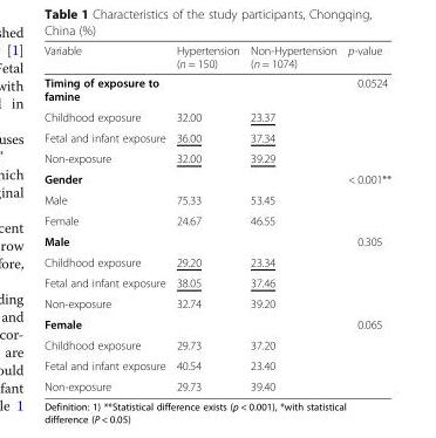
<table><thead><tr><td>Variable</td><td>Hypertension (n = 150)</td><td>Non-Hypertension (n = 1074)</td><td>p-value</td></tr></thead><tbody><tr><td>Timing of exposure to famine</td><td></td><td></td><td>0.0524</td></tr><tr><td>Childhood exposure</td><td>32.00</td><td>23.37</td><td></td></tr><tr><td>Fetal and infant exposure</td><td>36.00</td><td>37.34</td><td></td></tr><tr><td>Non-exposure</td><td>32.00</td><td>39.29</td><td></td></tr><tr><td>Gender</td><td></td><td></td><td>&lt; 0.001**</td></tr><tr><td>Male</td><td>75.33</td><td>53.45</td><td></td></tr><tr><td>Female</td><td>24.67</td><td>46.55</td><td></td></tr><tr><td>Male</td><td></td><td></td><td>0.305</td></tr><tr><td>Childhood exposure</td><td>29.20</td><td>23.34</td><td></td></tr><tr><td>Fetal and infant exposure</td><td>38.05</td><td>37.46</td><td></td></tr><tr><td>Non-exposure</td><td>32.74</td><td>39.20</td><td></td></tr><tr><td>Female</td><td></td><td></td><td>0.065</td></tr><tr><td>Childhood exposure</td><td>29.73</td><td>37.20</td><td></td></tr><tr><td>Fetal and infant exposure</td><td>40.54</td><td>23.40</td><td></td></tr><tr><td>Non-exposure</td><td>29.73</td><td>39.40</td><td></td></tr></tbody></table>